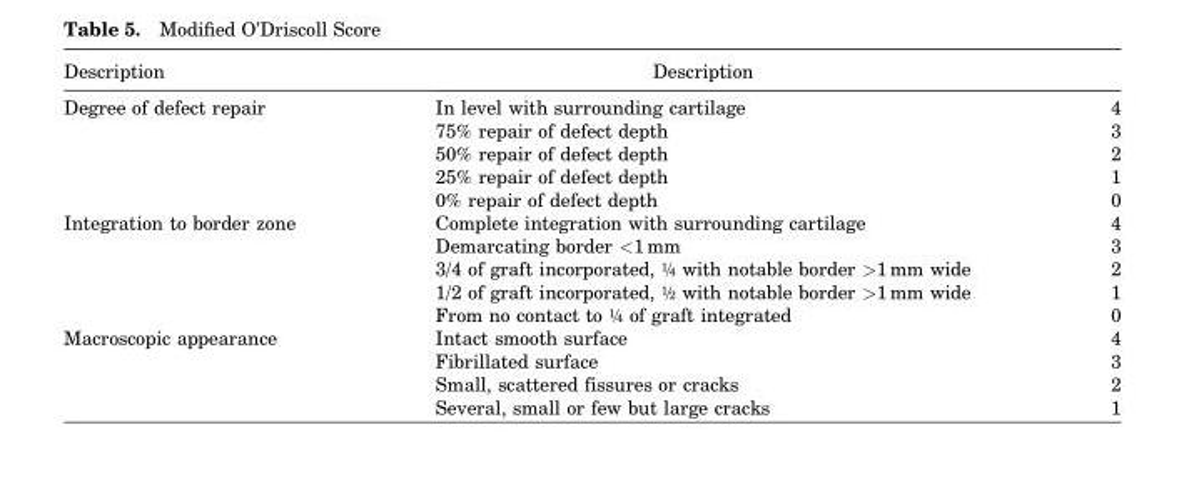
<table><thead><tr><td>Description</td><td>Description</td><td></td></tr></thead><tbody><tr><td rowspan="5">Degree of defect repair</td><td>In level with surrounding cartilage</td><td>4</td></tr><tr><td>75% repair of defect depth</td><td>3</td></tr><tr><td>50% repair of defect depth</td><td>2</td></tr><tr><td>25% repair of defect depth</td><td>1</td></tr><tr><td>0% repair of defect depth</td><td>0</td></tr><tr><td rowspan="5">Integration to border zone</td><td>Complete integration with surrounding cartilage</td><td>4</td></tr><tr><td>Demarcating border &lt;1 mm</td><td>3</td></tr><tr><td>3/4 of graft incorporated, 1 / 4 with notable border &gt;1 mm wide</td><td>2</td></tr><tr><td>1/2 of graft incorporated, 1 / 2 with notable border &gt;1 mm wide</td><td>1</td></tr><tr><td>From no contact to 1 / 4 of graft integrated</td><td>0</td></tr><tr><td rowspan="4">Macroscopic appearance</td><td>Intact smooth surface</td><td>4</td></tr><tr><td>Fibrillated surface</td><td>3</td></tr><tr><td>Small, scattered fissures or cracks</td><td>2</td></tr><tr><td>Several, small or few but large cracks</td><td>1</td></tr></tbody></table>